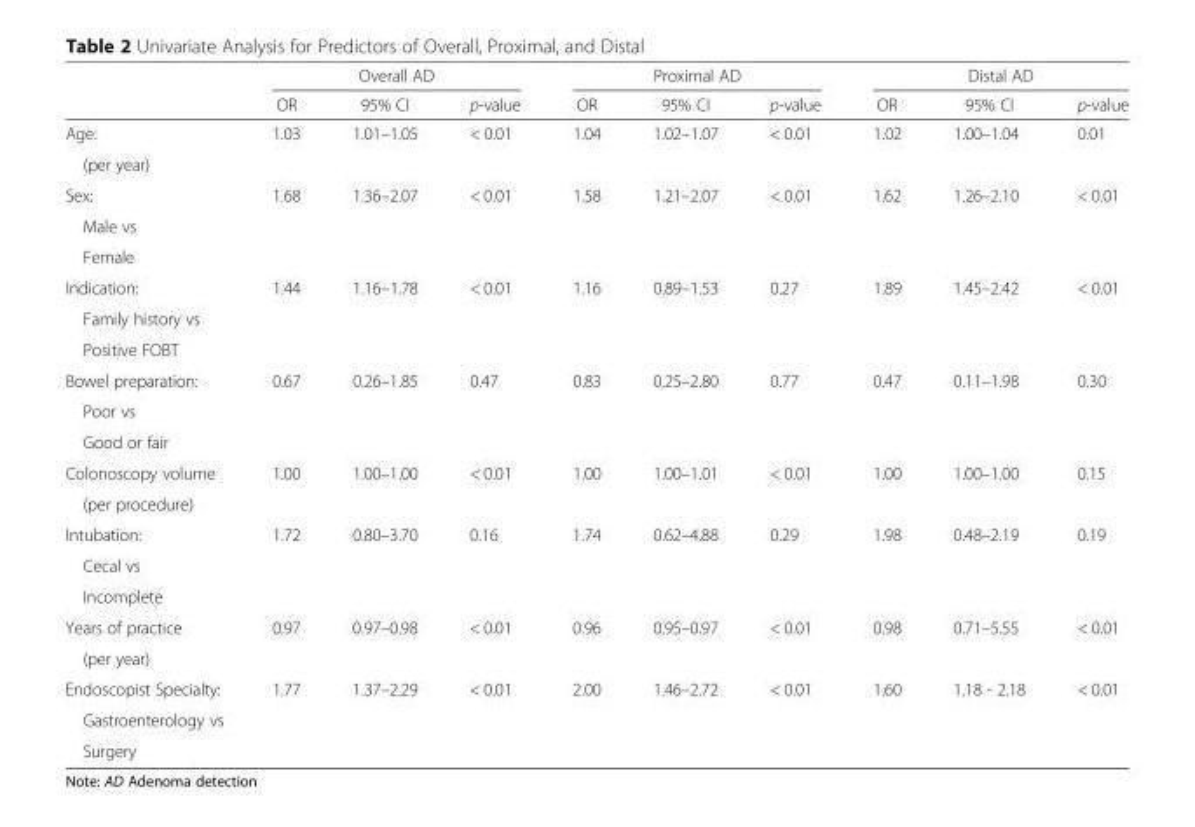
<table><thead><tr><td rowspan="2"></td><td colspan="3">Overall AD</td><td colspan="3">Proximal AD</td><td colspan="3">Distal AD</td></tr><tr><td>OR</td><td>95% CI</td><td>p-value</td><td>OR</td><td>95% CI</td><td>p-value</td><td>OR</td><td>95% CI</td><td>p-value</td></tr></thead><tbody><tr><td>Age:</td><td>1.03</td><td>1.01–1.05</td><td>&lt; 0.01</td><td>1.04</td><td>1.02–1.07</td><td>&lt; 0.01</td><td>1.02</td><td>1.00–1.04</td><td>0.01</td></tr><tr><td colspan="10">(per year)</td></tr><tr><td>Sex:</td><td>1.68</td><td>1.36–2.07</td><td>&lt; 0.01</td><td>1.58</td><td>1.21–2.07</td><td>&lt; 0.01</td><td>1.62</td><td>1.26–2.10</td><td>&lt; 0.01</td></tr><tr><td colspan="10">Male vs</td></tr><tr><td colspan="10">Female</td></tr><tr><td>Indication:</td><td>1.44</td><td>1.16–1.78</td><td>&lt; 0.01</td><td>1.16</td><td>0.89–1.53</td><td>0.27</td><td>1.89</td><td>1.45–2.42</td><td>&lt; 0.01</td></tr><tr><td colspan="10">Family history vs</td></tr><tr><td colspan="10">Positive FOBT</td></tr><tr><td>Bowel preparation:</td><td>0.67</td><td>0.26–1.85</td><td>0.47</td><td>0.83</td><td>0.25–2.80</td><td>0.77</td><td>0.47</td><td>0.11–1.98</td><td>0.30</td></tr><tr><td colspan="10">Poor vs</td></tr><tr><td colspan="10">Good or fair</td></tr><tr><td>Colonoscopy volume</td><td>1.00</td><td>1.00–1.00</td><td>&lt; 0.01</td><td>1.00</td><td>1.00–1.01</td><td>&lt; 0.01</td><td>1.00</td><td>1.00–1.00</td><td>0.15</td></tr><tr><td colspan="10">(per procedure)</td></tr><tr><td>Intubation:</td><td>1.72</td><td>0.80–3.70</td><td>0.16</td><td>1.74</td><td>0.62–4.88</td><td>0.29</td><td>1.98</td><td>0.48–2.19</td><td>0.19</td></tr><tr><td colspan="10">Cecal vs</td></tr><tr><td colspan="10">Incomplete</td></tr><tr><td>Years of practice</td><td>0.97</td><td>0.97–0.98</td><td>&lt; 0.01</td><td>0.96</td><td>0.95–0.97</td><td>&lt; 0.01</td><td>0.98</td><td>0.71–5.55</td><td>&lt; 0.01</td></tr><tr><td colspan="10">(per year)</td></tr><tr><td>Endoscopist Specialty:</td><td>1.77</td><td>1.37–2.29</td><td>&lt; 0.01</td><td>2.00</td><td>1.46–2.72</td><td>&lt; 0.01</td><td>1.60</td><td>1.18 - 2.18</td><td>&lt; 0.01</td></tr><tr><td colspan="10">Gastroenterology vs</td></tr><tr><td colspan="10">Surgery</td></tr></tbody></table>